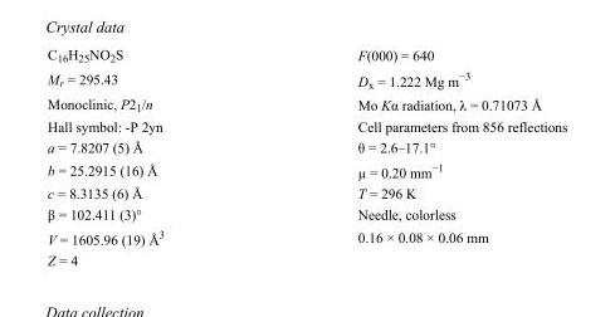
<table><tbody><tr><td>C<sub>16</sub>H<sub>25</sub>NO<sub>2</sub>S</td><td>F(000) = 640</td></tr><tr><td>M<sub>r</sub> = 295.43</td><td>D<sub>x</sub> = 1.222 Mg m<sup>−3</sup></td></tr><tr><td>Monoclinic, P2<sub>1</sub>/n</td><td>Mo Kα radiation, λ = 0.71073 Å</td></tr><tr><td>Hall symbol: -P 2yn</td><td>Cell parameters from 856 reflections</td></tr><tr><td>a = 7.8207 (5) Å</td><td>θ = 2.6–17.1°</td></tr><tr><td>b = 25.2915 (16) Å</td><td>µ = 0.20 mm<sup>−1</sup></td></tr><tr><td>c = 8.3135 (6) Å</td><td>T = 296 K</td></tr><tr><td>β = 102.411 (3)°</td><td>Needle, colorless</td></tr><tr><td>V = 1605.96 (19) Å<sup>3</sup></td><td>0.16 × 0.08 × 0.06 mm</td></tr><tr><td>Z = 4</td><td></td></tr></tbody></table>